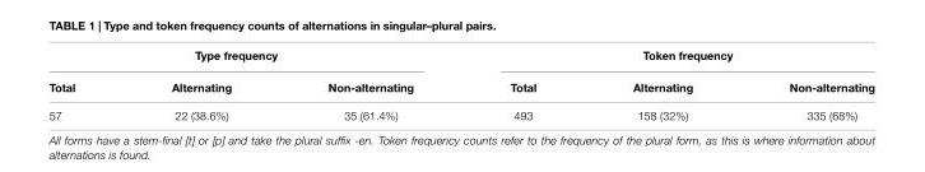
<table><thead><tr><td colspan="3">Type frequency</td><td colspan="3">Token frequency</td></tr><tr><td>Total</td><td>Alternating</td><td>Non-alternating</td><td>Total</td><td>Alternating</td><td>Non-alternating</td></tr></thead><tbody><tr><td>57</td><td>22 (38.6%)</td><td>35 (61.4%)</td><td>493</td><td>158 (32%)</td><td>335 (68%)</td></tr></tbody></table>